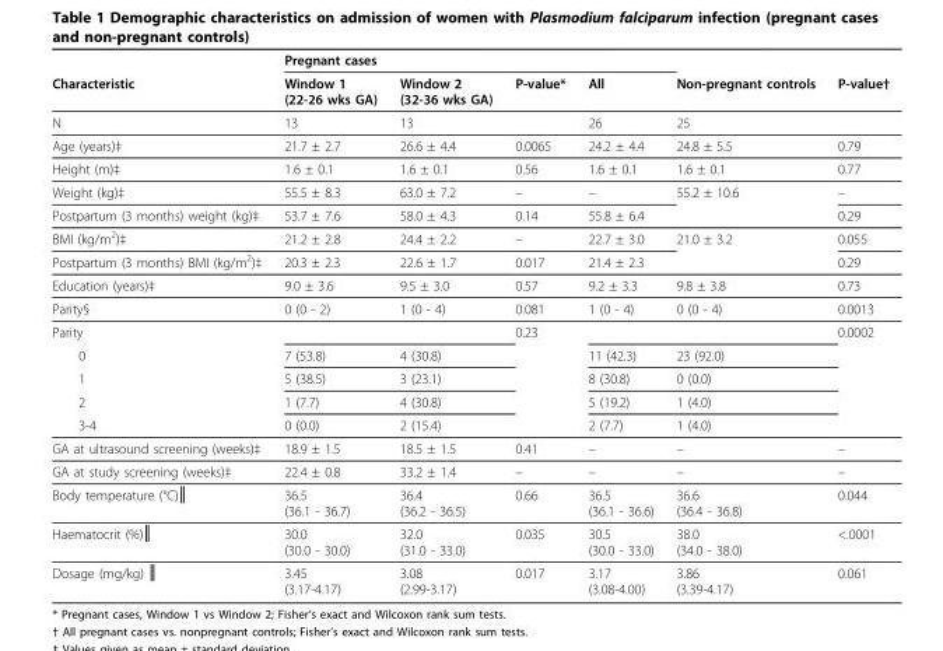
<table><thead><tr><td rowspan="2">Characteristic</td><td colspan="4">Pregnant cases</td><td rowspan="2">Non-pregnant controls</td><td rowspan="2">P-value†</td></tr><tr><td>Window 1 (22-26 wks GA)</td><td>Window 2 (32-36 wks GA)</td><td>P-value*</td><td>All</td></tr></thead><tbody><tr><td>N</td><td>13</td><td>13</td><td></td><td>26</td><td>25</td><td></td></tr><tr><td>Age (years)‡</td><td>21.7 ± 2.7</td><td>26.6 ± 4.4</td><td>0.0065</td><td>24.2 ± 4.4</td><td>24.8 ± 5.5</td><td>0.79</td></tr><tr><td>Height (m)‡</td><td>1.6 ± 0.1</td><td>1.6 ± 0.1</td><td>0.56</td><td>1.6 ± 0.1</td><td>1.6 ± 0.1</td><td>0.77</td></tr><tr><td>Weight (kg)‡</td><td>55.5 ± 8.3</td><td>63.0 ± 7.2</td><td>–</td><td>–</td><td>55.2 ± 10.6</td><td>–</td></tr><tr><td>Postpartum (3 months) weight (kg)‡</td><td>53.7 ± 7.6</td><td>58.0 ± 4.3</td><td>0.14</td><td>55.8 ± 6.4</td><td></td><td>0.29</td></tr><tr><td>BMI (kg/m2)‡</td><td>21.2 ± 2.8</td><td>24.4 ± 2.2</td><td>–</td><td>22.7 ± 3.0</td><td>21.0 ± 3.2</td><td>0.055</td></tr><tr><td>Postpartum (3 months) BMI (kg/m2)‡</td><td>20.3 ± 2.3</td><td>22.6 ± 1.7</td><td>0.017</td><td>21.4 ± 2.3</td><td></td><td>0.29</td></tr><tr><td>Education (years)‡</td><td>9.0 ± 3.6</td><td>9.5 ± 3.0</td><td>0.57</td><td>9.2 ± 3.3</td><td>9.8 ± 3.8</td><td>0.73</td></tr><tr><td>Parity§</td><td>0 (0 - 2)</td><td>1 (0 - 4)</td><td>0.081</td><td>1 (0 - 4)</td><td>0 (0 - 4)</td><td>0.0013</td></tr><tr><td>Parity</td><td></td><td></td><td>0.23</td><td></td><td></td><td>0.0002</td></tr><tr><td>0</td><td>7 (53.8)</td><td>4 (30.8)</td><td></td><td>11 (42.3)</td><td>23 (92.0)</td><td></td></tr><tr><td>1</td><td>5 (38.5)</td><td>3 (23.1)</td><td></td><td>8 (30.8)</td><td>0 (0.0)</td><td></td></tr><tr><td>2</td><td>1 (7.7)</td><td>4 (30.8)</td><td></td><td>5 (19.2)</td><td>1 (4.0)</td><td></td></tr><tr><td>3-4</td><td>0 (0.0)</td><td>2 (15.4)</td><td></td><td>2 (7.7)</td><td>1 (4.0)</td><td></td></tr><tr><td>GA at ultrasound screening (weeks)‡</td><td>18.9 ± 1.5</td><td>18.5 ± 1.5</td><td>0.41</td><td>–</td><td>–</td><td>–</td></tr><tr><td>GA at study screening (weeks)‡</td><td>22.4 ± 0.8</td><td>33.2 ± 1.4</td><td>–</td><td>–</td><td>–</td><td>–</td></tr><tr><td>Body temperature (°C)║</td><td>36.5 (36.1 - 36.7)</td><td>36.4 (36.2 - 36.5)</td><td>0.66</td><td>36.5 (36.1 - 36.6)</td><td>36.6 (36.4 - 36.8)</td><td>0.044</td></tr><tr><td>Haematocrit (%)║</td><td>30.0 (30.0 - 30.0)</td><td>32.0 (31.0 - 33.0)</td><td>0.035</td><td>30.5 (30.0 - 33.0)</td><td>38.0 (34.0 - 38.0)</td><td>&lt;.0001</td></tr><tr><td>Dosage (mg/kg) ║</td><td>3.45 (3.17-4.17)</td><td>3.08 (2.99-3.17)</td><td>0.017</td><td>3.17 (3.08-4.00)</td><td>3.86 (3.39-4.17)</td><td>0.061</td></tr></tbody></table>